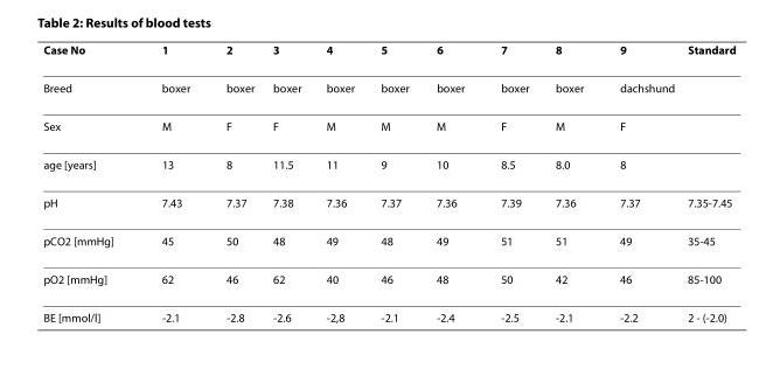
<table><thead><tr><td>Case No</td><td>1</td><td>2</td><td>3</td><td>4</td><td>5</td><td>6</td><td>7</td><td>8</td><td>9</td><td>Standard</td></tr></thead><tbody><tr><td>Breed</td><td>boxer</td><td>boxer</td><td>boxer</td><td>boxer</td><td>boxer</td><td>boxer</td><td>boxer</td><td>boxer</td><td>dachshund</td><td></td></tr><tr><td>Sex</td><td>M</td><td>F</td><td>F</td><td>M</td><td>M</td><td>M</td><td>F</td><td>M</td><td>F</td><td></td></tr><tr><td>age [years]</td><td>13</td><td>8</td><td>11.5</td><td>11</td><td>9</td><td>10</td><td>8.5</td><td>8.0</td><td>8</td><td></td></tr><tr><td>pH</td><td>7.43</td><td>7.37</td><td>7.38</td><td>7.36</td><td>7.37</td><td>7.36</td><td>7.39</td><td>7.36</td><td>7.37</td><td>7.35-7.45</td></tr><tr><td>pCO2 [mmHg]</td><td>45</td><td>50</td><td>48</td><td>49</td><td>48</td><td>49</td><td>51</td><td>51</td><td>49</td><td>35-45</td></tr><tr><td>pO2 [mmHg]</td><td>62</td><td>46</td><td>62</td><td>40</td><td>46</td><td>48</td><td>50</td><td>42</td><td>46</td><td>85-100</td></tr><tr><td>BE [mmol/l]</td><td>-2.1</td><td>-2.8</td><td>-2.6</td><td>-2,8</td><td>-2.1</td><td>-2.4</td><td>-2.5</td><td>-2.1</td><td>-2.2</td><td>2 - (-2.0)</td></tr></tbody></table>